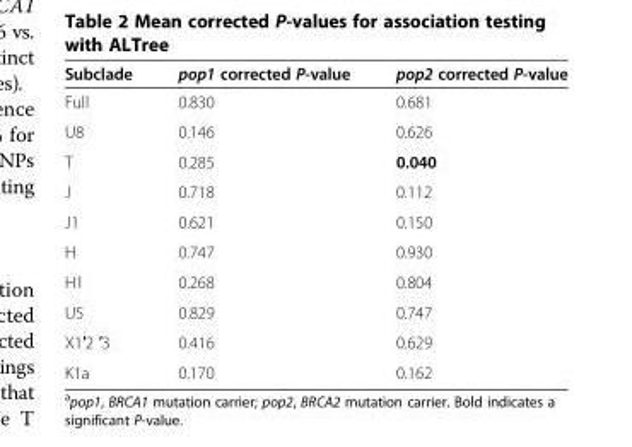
<table><thead><tr><td>Subclade</td><td>pop1 corrected P-value</td><td>pop2 corrected P-value</td></tr></thead><tbody><tr><td>Full</td><td>0.830</td><td>0.681</td></tr><tr><td>U8</td><td>0.146</td><td>0.626</td></tr><tr><td>T</td><td>0.285</td><td>0.040</td></tr><tr><td>J</td><td>0.718</td><td>0.112</td></tr><tr><td>J1</td><td>0.621</td><td>0.150</td></tr><tr><td>H</td><td>0.747</td><td>0.930</td></tr><tr><td>H1</td><td>0.268</td><td>0.804</td></tr><tr><td>U5</td><td>0.829</td><td>0.747</td></tr><tr><td>X1′2 ′3</td><td>0.416</td><td>0.629</td></tr><tr><td>K1a</td><td>0.170</td><td>0.162</td></tr></tbody></table>